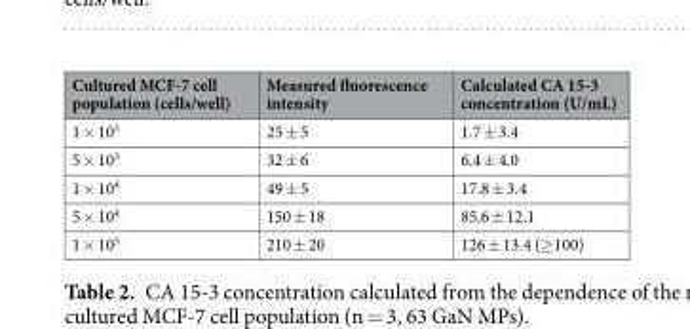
<table><thead><tr><td>Cultured MCF-7 cell population (cells/well)</td><td>Measured fluorescence intensity</td><td>Calculated CA 15-3 concentration (U/mL)</td></tr></thead><tbody><tr><td>1 × 10<sup>3</sup></td><td>25 ± 5</td><td>1.7 ± 3.4</td></tr><tr><td>5 × 10<sup>3</sup></td><td>32 ± 6</td><td>6.4 ± 4.0</td></tr><tr><td>1 × 10<sup>4</sup></td><td>49 ± 5</td><td>17.8 ± 3.4</td></tr><tr><td>5 × 10<sup>4</sup></td><td>150 ± 18</td><td>85.6 ± 12.1</td></tr><tr><td>1 × 10<sup>5</sup></td><td>210 ± 20</td><td>126 ± 13.4 (≥100)</td></tr></tbody></table>